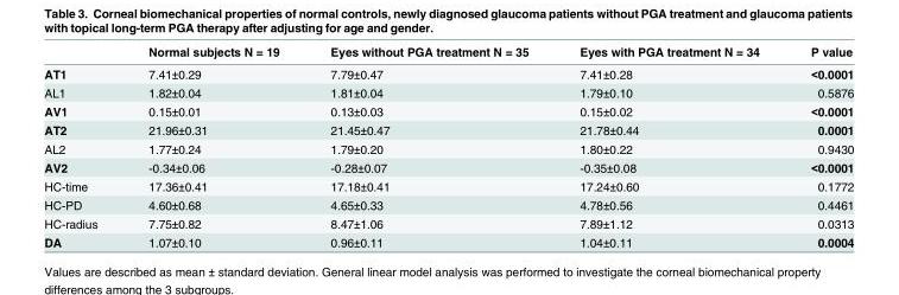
<table><thead><tr><td></td><td>Normal subjects N = 19</td><td>Eyes without PGA treatment N = 35</td><td>Eyes with PGA treatment N = 34</td><td>P value</td></tr></thead><tbody><tr><td>AT1</td><td>7.41±0.29</td><td>7.79±0.47</td><td>7.41±0.28</td><td>&lt;0.0001</td></tr><tr><td>AL1</td><td>1.82±0.04</td><td>1.81±0.04</td><td>1.79±0.10</td><td>0.5876</td></tr><tr><td>AV1</td><td>0.15±0.01</td><td>0.13±0.03</td><td>0.15±0.02</td><td>&lt;0.0001</td></tr><tr><td>AT2</td><td>21.96±0.31</td><td>21.45±0.47</td><td>21.78±0.44</td><td>0.0001</td></tr><tr><td>AL2</td><td>1.77±0.24</td><td>1.79±0.20</td><td>1.80±0.22</td><td>0.9430</td></tr><tr><td>AV2</td><td>-0.34±0.06</td><td>-0.28±0.07</td><td>-0.35±0.08</td><td>&lt;0.0001</td></tr><tr><td>HC-time</td><td>17.36±0.41</td><td>17.18±0.41</td><td>17.24±0.60</td><td>0.1772</td></tr><tr><td>HC-PD</td><td>4.60±0.68</td><td>4.65±0.33</td><td>4.78±0.56</td><td>0.4461</td></tr><tr><td>HC-radius</td><td>7.75±0.82</td><td>8.47±1.06</td><td>7.89±1.12</td><td>0.0313</td></tr><tr><td>DA</td><td>1.07±0.10</td><td>0.96±0.11</td><td>1.04±0.11</td><td>0.0004</td></tr></tbody></table>